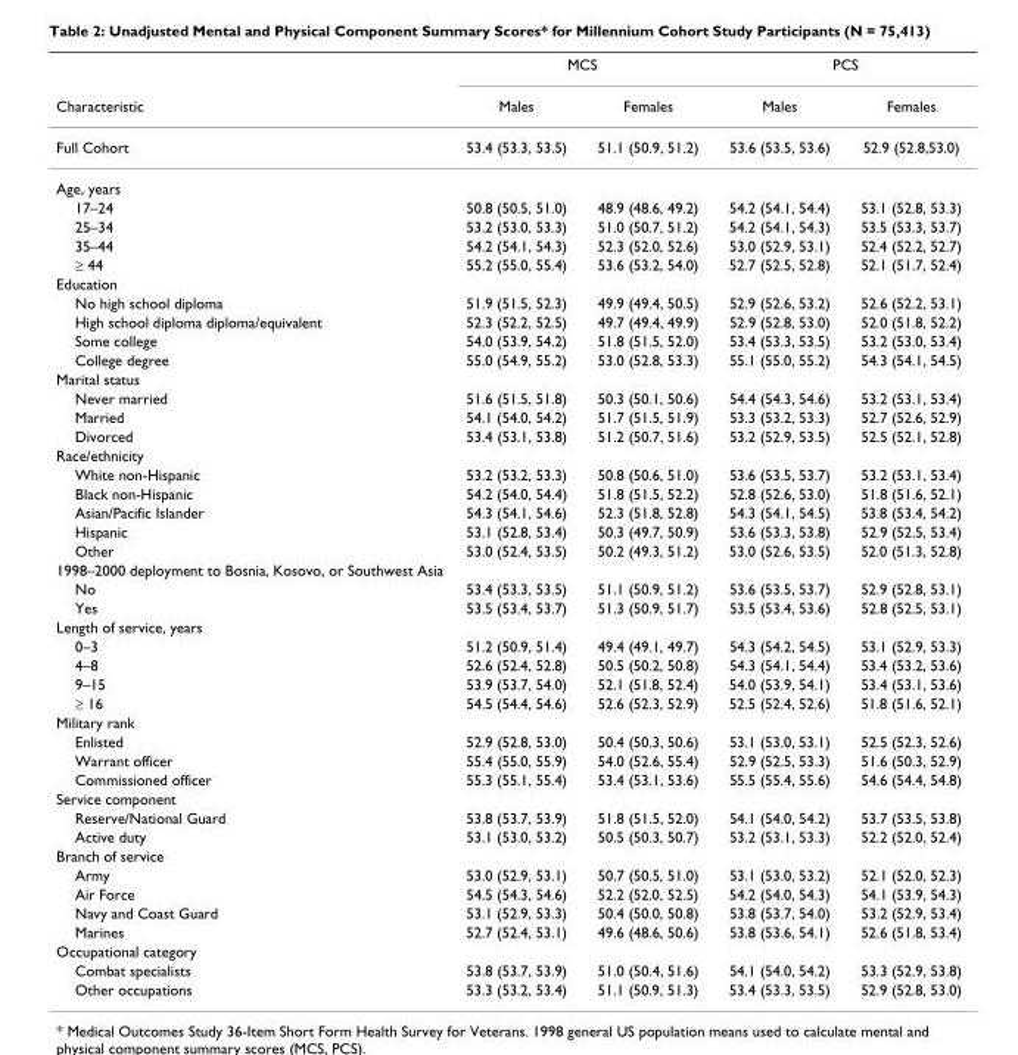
<table><thead><tr><td rowspan="2">Characteristic</td><td colspan="2">MCS</td><td colspan="2">PCS</td></tr><tr><td>Males</td><td>Females</td><td>Males</td><td>Females</td></tr></thead><tbody><tr><td>Full Cohort</td><td>53.4 (53.3, 53.5)</td><td>51.1 (50.9, 51.2)</td><td>53.6 (53.5, 53.6)</td><td>52.9 (52.8,53.0)</td></tr><tr><td colspan="5">Age, years</td></tr><tr><td>17–24</td><td>50.8 (50.5, 51.0)</td><td>48.9 (48.6, 49.2)</td><td>54.2 (54.1, 54.4)</td><td>53.1 (52.8, 53.3)</td></tr><tr><td>25–34</td><td>53.2 (53.0, 53.3)</td><td>51.0 (50.7, 51.2)</td><td>54.2 (54.1, 54.3)</td><td>53.5 (53.3, 53.7)</td></tr><tr><td>35–44</td><td>54.2 (54.1, 54.3)</td><td>52.3 (52.0, 52.6)</td><td>53.0 (52.9, 53.1)</td><td>52.4 (52.2, 52.7)</td></tr><tr><td>≥ 44</td><td>55.2 (55.0, 55.4)</td><td>53.6 (53.2, 54.0)</td><td>52.7 (52.5, 52.8)</td><td>52.1 (51.7, 52.4)</td></tr><tr><td colspan="5">Education</td></tr><tr><td>No high school diploma</td><td>51.9 (51.5, 52.3)</td><td>49.9 (49.4, 50.5)</td><td>52.9 (52.6, 53.2)</td><td>52.6 (52.2, 53.1)</td></tr><tr><td>High school diploma diploma/equivalent</td><td>52.3 (52.2, 52.5)</td><td>49.7 (49.4, 49.9)</td><td>52.9 (52.8, 53.0)</td><td>52.0 (51.8, 52.2)</td></tr><tr><td>Some college</td><td>54.0 (53.9, 54.2)</td><td>51.8 (51.5, 52.0)</td><td>53.4 (53.3, 53.5)</td><td>53.2 (53.0, 53.4)</td></tr><tr><td>College degree</td><td>55.0 (54.9, 55.2)</td><td>53.0 (52.8, 53.3)</td><td>55.1 (55.0, 55.2)</td><td>54.3 (54.1, 54.5)</td></tr><tr><td colspan="5">Marital status</td></tr><tr><td>Never married</td><td>51.6 (51.5, 51.8)</td><td>50.3 (50.1, 50.6)</td><td>54.4 (54.3, 54.6)</td><td>53.2 (53.1, 53.4)</td></tr><tr><td>Married</td><td>54.1 (54.0, 54.2)</td><td>51.7 (51.5, 51.9)</td><td>53.3 (53.2, 53.3)</td><td>52.7 (52.6, 52.9)</td></tr><tr><td>Divorced</td><td>53.4 (53.1, 53.8)</td><td>51.2 (50.7, 51.6)</td><td>53.2 (52.9, 53.5)</td><td>52.5 (52.1, 52.8)</td></tr><tr><td colspan="5">Race/ethnicity</td></tr><tr><td>White non-Hispanic</td><td>53.2 (53.2, 53.3)</td><td>50.8 (50.6, 51.0)</td><td>53.6 (53.5, 53.7)</td><td>53.2 (53.1, 53.4)</td></tr><tr><td>Black non-Hispanic</td><td>54.2 (54.0, 54.4)</td><td>51.8 (51.5, 52.2)</td><td>52.8 (52.6, 53.0)</td><td>51.8 (51.6, 52.1)</td></tr><tr><td>Asian/Pacific Islander</td><td>54.3 (54.1, 54.6)</td><td>52.3 (51.8, 52.8)</td><td>54.3 (54.1, 54.5)</td><td>53.8 (53.4, 54.2)</td></tr><tr><td>Hispanic</td><td>53.1 (52.8, 53.4)</td><td>50.3 (49.7, 50.9)</td><td>53.6 (53.3, 53.8)</td><td>52.9 (52.5, 53.4)</td></tr><tr><td>Other</td><td>53.0 (52.4, 53.5)</td><td>50.2 (49.3, 51.2)</td><td>53.0 (52.6, 53.5)</td><td>52.0 (51.3, 52.8)</td></tr><tr><td colspan="5">1998–2000 deployment to Bosnia, Kosovo, or Southwest Asia</td></tr><tr><td>No</td><td>53.4 (53.3, 53.5)</td><td>51.1 (50.9, 51.2)</td><td>53.6 (53.5, 53.7)</td><td>52.9 (52.8, 53.1)</td></tr><tr><td>Yes</td><td>53.5 (53.4, 53.7)</td><td>51.3 (50.9, 51.7)</td><td>53.5 (53.4, 53.6)</td><td>52.8 (52.5, 53.1)</td></tr><tr><td colspan="5">Length of service, years</td></tr><tr><td>0–3</td><td>51.2 (50.9, 51.4)</td><td>49.4 (49.1, 49.7)</td><td>54.3 (54.2, 54.5)</td><td>53.1 (52.9, 53.3)</td></tr><tr><td>4–8</td><td>52.6 (52.4, 52.8)</td><td>50.5 (50.2, 50.8)</td><td>54.3 (54.1, 54.4)</td><td>53.4 (53.2, 53.6)</td></tr><tr><td>9–15</td><td>53.9 (53.7, 54.0)</td><td>52.1 (51.8, 52.4)</td><td>54.0 (53.9, 54.1)</td><td>53.4 (53.1, 53.6)</td></tr><tr><td>≥ 16</td><td>54.5 (54.4, 54.6)</td><td>52.6 (52.3, 52.9)</td><td>52.5 (52.4, 52.6)</td><td>51.8 (51.6, 52.1)</td></tr><tr><td colspan="5">Military rank</td></tr><tr><td>Enlisted</td><td>52.9 (52.8, 53.0)</td><td>50.4 (50.3, 50.6)</td><td>53.1 (53.0, 53.1)</td><td>52.5 (52.3, 52.6)</td></tr><tr><td>Warrant officer</td><td>55.4 (55.0, 55.9)</td><td>54.0 (52.6, 55.4)</td><td>52.9 (52.5, 53.3)</td><td>51.6 (50.3, 52.9)</td></tr><tr><td>Commissioned officer</td><td>55.3 (55.1, 55.4)</td><td>53.4 (53.1, 53.6)</td><td>55.5 (55.4, 55.6)</td><td>54.6 (54.4, 54.8)</td></tr><tr><td colspan="5">Service component</td></tr><tr><td>Reserve/National Guard</td><td>53.8 (53.7, 53.9)</td><td>51.8 (51.5, 52.0)</td><td>54.1 (54.0, 54.2)</td><td>53.7 (53.5, 53.8)</td></tr><tr><td>Active duty</td><td>53.1 (53.0, 53.2)</td><td>50.5 (50.3, 50.7)</td><td>53.2 (53.1, 53.3)</td><td>52.2 (52.0, 52.4)</td></tr><tr><td colspan="5">Branch of service</td></tr><tr><td>Army</td><td>53.0 (52.9, 53.1)</td><td>50.7 (50.5, 51.0)</td><td>53.1 (53.0, 53.2)</td><td>52.1 (52.0, 52.3)</td></tr><tr><td>Air Force</td><td>54.5 (54.3, 54.6)</td><td>52.2 (52.0, 52.5)</td><td>54.2 (54.0, 54.3)</td><td>54.1 (53.9, 54.3)</td></tr><tr><td>Navy and Coast Guard</td><td>53.1 (52.9, 53.3)</td><td>50.4 (50.0, 50.8)</td><td>53.8 (53.7, 54.0)</td><td>53.2 (52.9, 53.4)</td></tr><tr><td>Marines</td><td>52.7 (52.4, 53.1)</td><td>49.6 (48.6, 50.6)</td><td>53.8 (53.6, 54.1)</td><td>52.6 (51.8, 53.4)</td></tr><tr><td colspan="5">Occupational category</td></tr><tr><td>Combat specialists</td><td>53.8 (53.7, 53.9)</td><td>51.0 (50.4, 51.6)</td><td>54.1 (54.0, 54.2)</td><td>53.3 (52.9, 53.8)</td></tr><tr><td>Other occupations</td><td>53.3 (53.2, 53.4)</td><td>51.1 (50.9, 51.3)</td><td>53.4 (53.3, 53.5)</td><td>52.9 (52.8, 53.0)</td></tr></tbody></table>